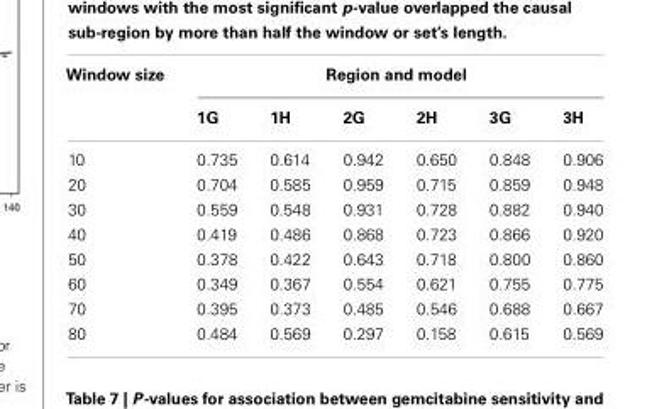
<table><thead><tr><td rowspan="2">Window size</td><td colspan="6">Region and model</td></tr><tr><td>1G</td><td>1H</td><td>2G</td><td>2H</td><td>3G</td><td>3H</td></tr></thead><tbody><tr><td>10</td><td>0.735</td><td>0.614</td><td>0.942</td><td>0.650</td><td>0.848</td><td>0.906</td></tr><tr><td>20</td><td>0.704</td><td>0.585</td><td>0.959</td><td>0.715</td><td>0.859</td><td>0.948</td></tr><tr><td>30</td><td>0.559</td><td>0.548</td><td>0.931</td><td>0.728</td><td>0.882</td><td>0.940</td></tr><tr><td>40</td><td>0.419</td><td>0.486</td><td>0.868</td><td>0.723</td><td>0.866</td><td>0.920</td></tr><tr><td>50</td><td>0.378</td><td>0.422</td><td>0.643</td><td>0.718</td><td>0.800</td><td>0.860</td></tr><tr><td>60</td><td>0.349</td><td>0.367</td><td>0.554</td><td>0.621</td><td>0.755</td><td>0.775</td></tr><tr><td>70</td><td>0.395</td><td>0.373</td><td>0.485</td><td>0.546</td><td>0.688</td><td>0.667</td></tr><tr><td>80</td><td>0.484</td><td>0.569</td><td>0.297</td><td>0.158</td><td>0.615</td><td>0.569</td></tr></tbody></table>